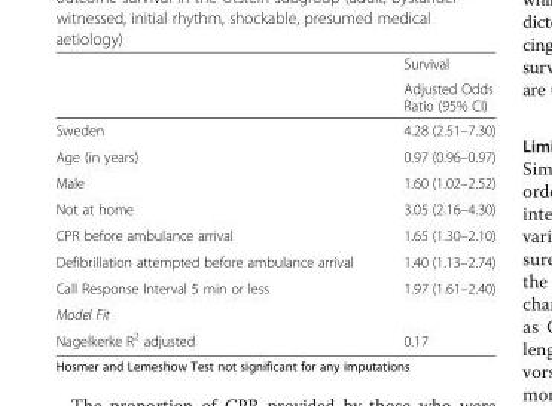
<table><thead><tr><td rowspan="2"></td><td rowspan="2">Survival Adjusted Odds Ratio (95% CI)</td></tr><tr></tr></thead><tbody><tr><td>Sweden</td><td>4.28 (2.51–7.30)</td></tr><tr><td>Age (in years)</td><td>0.97 (0.96–0.97)</td></tr><tr><td>Male</td><td>1.60 (1.02–2.52)</td></tr><tr><td>Not at home</td><td>3.05 (2.16–4.30)</td></tr><tr><td>CPR before ambulance arrival</td><td>1.65 (1.30–2.10)</td></tr><tr><td>Defibrillation attempted before ambulance arrival</td><td>1.40 (1.13–2.74)</td></tr><tr><td>Call Response Interval 5 min or less</td><td>1.97 (1.61–2.40)</td></tr><tr><td colspan="2">Model Fit</td></tr><tr><td>Nagelkerke R<sup>2</sup> adjusted</td><td>0.17</td></tr></tbody></table>